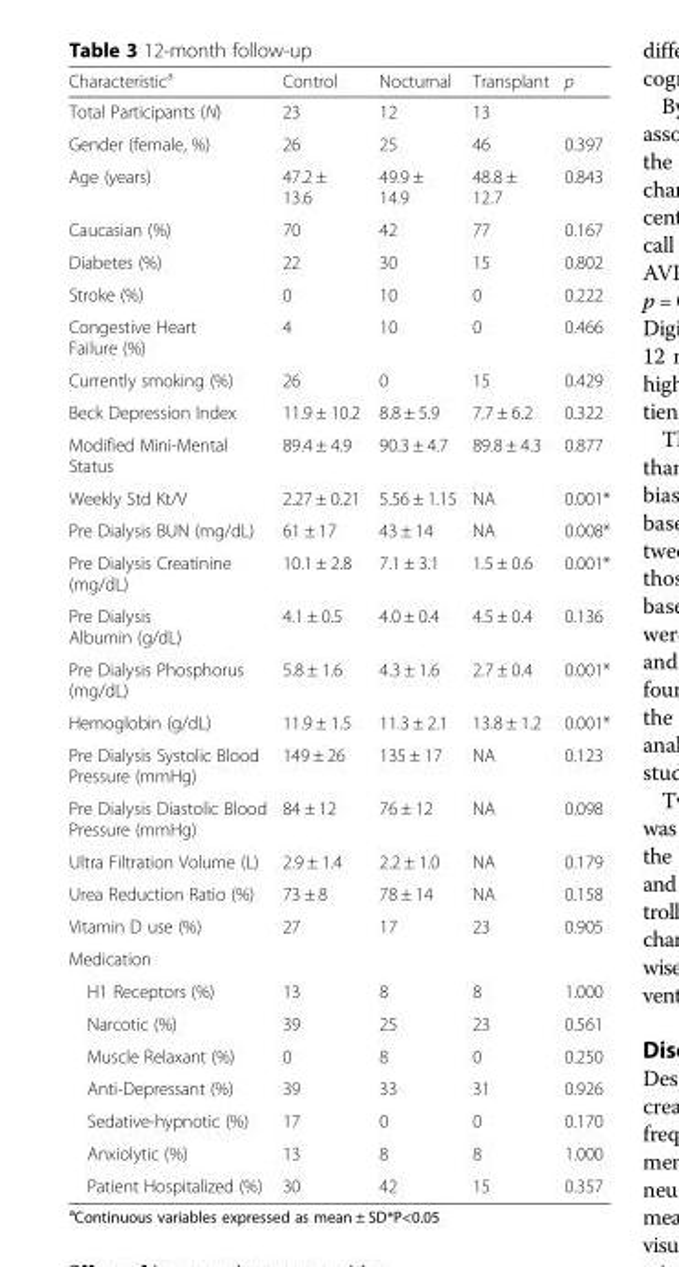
<table><thead><tr><td>Characteristic<sup>a</sup></td><td>Control</td><td>Nocturnal</td><td>Transplant</td><td>p</td></tr></thead><tbody><tr><td>Total Participants (N)</td><td>23</td><td>12</td><td>13</td><td></td></tr><tr><td>Gender (female, %)</td><td>26</td><td>25</td><td>46</td><td>0.397</td></tr><tr><td>Age (years)</td><td>47.2 ± 13.6</td><td>49.9 ± 14.9</td><td>48.8 ± 12.7</td><td>0.843</td></tr><tr><td>Caucasian (%)</td><td>70</td><td>42</td><td>77</td><td>0.167</td></tr><tr><td>Diabetes (%)</td><td>22</td><td>30</td><td>15</td><td>0.802</td></tr><tr><td>Stroke (%)</td><td>0</td><td>10</td><td>0</td><td>0.222</td></tr><tr><td>Congestive Heart Failure (%)</td><td>4</td><td>10</td><td>0</td><td>0.466</td></tr><tr><td>Currently smoking (%)</td><td>26</td><td>0</td><td>15</td><td>0.429</td></tr><tr><td>Beck Depression Index</td><td>11.9 ± 10.2</td><td>8.8 ± 5.9</td><td>7.7 ± 6.2</td><td>0.322</td></tr><tr><td>Modified Mini-Mental Status</td><td>89.4 ± 4.9</td><td>90.3 ± 4.7</td><td>89.8 ± 4.3</td><td>0.877</td></tr><tr><td>Weekly Std Kt/V</td><td>2.27 ± 0.21</td><td>5.56 ± 1.15</td><td>NA</td><td>0.001*</td></tr><tr><td>Pre Dialysis BUN (mg/dL)</td><td>61 ± 17</td><td>43 ± 14</td><td>NA</td><td>0.008*</td></tr><tr><td>Pre Dialysis Creatinine (mg/dL)</td><td>10.1 ± 2.8</td><td>7.1 ± 3.1</td><td>1.5 ± 0.6</td><td>0.001*</td></tr><tr><td>Pre Dialysis Albumin (g/dL)</td><td>4.1 ± 0.5</td><td>4.0 ± 0.4</td><td>4.5 ± 0.4</td><td>0.136</td></tr><tr><td>Pre Dialysis Phosphorus (mg/dL)</td><td>5.8 ± 1.6</td><td>4.3 ± 1.6</td><td>2.7 ± 0.4</td><td>0.001*</td></tr><tr><td>Hemoglobin (g/dL)</td><td>11.9 ± 1.5</td><td>11.3 ± 2.1</td><td>13.8 ± 1.2</td><td>0.001*</td></tr><tr><td>Pre Dialysis Systolic Blood Pressure (mmHg)</td><td>149 ± 26</td><td>135 ± 17</td><td>NA</td><td>0.123</td></tr><tr><td>Pre Dialysis Diastolic Blood Pressure (mmHg)</td><td>84 ± 12</td><td>76 ± 12</td><td>NA</td><td>0.098</td></tr><tr><td>Ultra Filtration Volume (L)</td><td>2.9 ± 1.4</td><td>2.2 ± 1.0</td><td>NA</td><td>0.179</td></tr><tr><td>Urea Reduction Ratio (%)</td><td>73 ± 8</td><td>78 ± 14</td><td>NA</td><td>0.158</td></tr><tr><td>Vitamin D use (%)</td><td>27</td><td>17</td><td>23</td><td>0.905</td></tr><tr><td colspan="5">Medication</td></tr><tr><td>H1 Receptors (%)</td><td>13</td><td>8</td><td>8</td><td>1.000</td></tr><tr><td>Narcotic (%)</td><td>39</td><td>25</td><td>23</td><td>0.561</td></tr><tr><td>Muscle Relaxant (%)</td><td>0</td><td>8</td><td>0</td><td>0.250</td></tr><tr><td>Anti-Depressant (%)</td><td>39</td><td>33</td><td>31</td><td>0.926</td></tr><tr><td>Sedative-hypnotic (%)</td><td>17</td><td>0</td><td>0</td><td>0.170</td></tr><tr><td>Anxiolytic (%)</td><td>13</td><td>8</td><td>8</td><td>1.000</td></tr><tr><td>Patient Hospitalized (%)</td><td>30</td><td>42</td><td>15</td><td>0.357</td></tr></tbody></table>